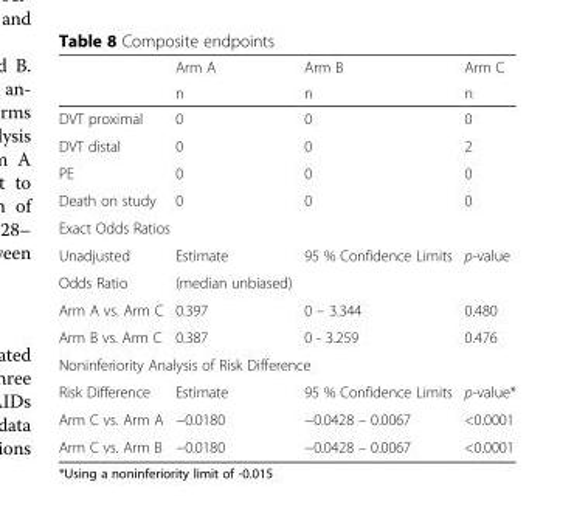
<table><thead><tr><td rowspan="2"></td><td rowspan="2">Arm A n</td><td rowspan="2">Arm B n</td><td rowspan="2">Arm C n</td></tr><tr></tr></thead><tbody><tr><td>DVT proximal</td><td>0</td><td>0</td><td>0</td></tr><tr><td>DVT distal</td><td>0</td><td>0</td><td>2</td></tr><tr><td>PE</td><td>0</td><td>0</td><td>0</td></tr><tr><td>Death on study</td><td>0</td><td>0</td><td>0</td></tr><tr><td colspan="4">Exact Odds Ratios</td></tr><tr><td>Unadjusted</td><td>Estimate</td><td>95 % Confidence Limits</td><td>p-value</td></tr><tr><td>Odds Ratio</td><td>(median unbiased)</td><td></td><td></td></tr><tr><td>Arm A vs. Arm C</td><td>0.397</td><td>0 – 3.344</td><td>0.480</td></tr><tr><td>Arm B vs. Arm C</td><td>0.387</td><td>0 - 3.259</td><td>0.476</td></tr><tr><td colspan="4">Noninferiority Analysis of Risk Difference</td></tr><tr><td>Risk Difference</td><td>Estimate</td><td>95 % Confidence Limits</td><td>p-value*</td></tr><tr><td>Arm C vs. Arm A</td><td>−0.0180</td><td>−0.0428 – 0.0067</td><td>&lt;0.0001</td></tr><tr><td>Arm C vs. Arm B</td><td>−0.0180</td><td>−0.0428 – 0.0067</td><td>&lt;0.0001</td></tr></tbody></table>